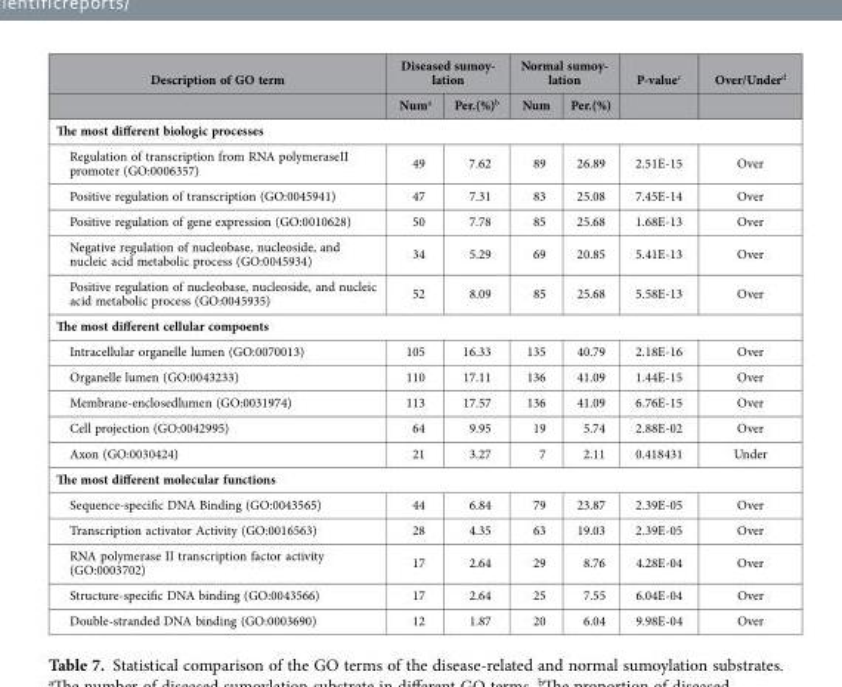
<table><thead><tr><td rowspan="2">Description of GO term</td><td colspan="2">Diseased sumoy- lation</td><td colspan="2">Normal sumoy- lation</td><td rowspan="2">P-value<sup>c</sup></td><td rowspan="2">Over/Under<sup>d</sup></td></tr><tr><td>Num<sup>a</sup></td><td>Per.(%)<sup>b</sup></td><td>Num</td><td>Per.(%)</td></tr></thead><tbody><tr><td colspan="7">The most different biologic processes</td></tr><tr><td>Regulation of transcription from RNA polymeraseII promoter (GO:0006357)</td><td>49</td><td>7.62</td><td>89</td><td>26.89</td><td>2.51E-15</td><td>Over</td></tr><tr><td>Positive regulation of transcription (GO:0045941)</td><td>47</td><td>7.31</td><td>83</td><td>25.08</td><td>7.45E-14</td><td>Over</td></tr><tr><td>Positive regulation of gene expression (GO:0010628)</td><td>50</td><td>7.78</td><td>85</td><td>25.68</td><td>1.68E-13</td><td>Over</td></tr><tr><td>Negative regulation of nucleobase, nucleoside, and nucleic acid metabolic process (GO:0045934)</td><td>34</td><td>5.29</td><td>69</td><td>20.85</td><td>5.41E-13</td><td>Over</td></tr><tr><td>Positive regulation of nucleobase, nucleoside, and nucleic acid metabolic process (GO:0045935)</td><td>52</td><td>8.09</td><td>85</td><td>25.68</td><td>5.58E-13</td><td>Over</td></tr><tr><td colspan="7">The most different cellular compoents</td></tr><tr><td>Intracellular organelle lumen (GO:0070013)</td><td>105</td><td>16.33</td><td>135</td><td>40.79</td><td>2.18E-16</td><td>Over</td></tr><tr><td>Organelle lumen (GO:0043233)</td><td>110</td><td>17.11</td><td>136</td><td>41.09</td><td>1.44E-15</td><td>Over</td></tr><tr><td>Membrane-enclosedlumen (GO:0031974)</td><td>113</td><td>17.57</td><td>136</td><td>41.09</td><td>6.76E-15</td><td>Over</td></tr><tr><td>Cell projection (GO:0042995)</td><td>64</td><td>9.95</td><td>19</td><td>5.74</td><td>2.88E-02</td><td>Over</td></tr><tr><td>Axon (GO:0030424)</td><td>21</td><td>3.27</td><td>7</td><td>2.11</td><td>0.418431</td><td>Under</td></tr><tr><td colspan="7">The most different molecular functions</td></tr><tr><td>Sequence-specific DNA Binding (GO:0043565)</td><td>44</td><td>6.84</td><td>79</td><td>23.87</td><td>2.39E-05</td><td>Over</td></tr><tr><td>Transcription activator Activity (GO:0016563)</td><td>28</td><td>4.35</td><td>63</td><td>19.03</td><td>2.39E-05</td><td>Over</td></tr><tr><td>RNA polymerase II transcription factor activity (GO:0003702)</td><td>17</td><td>2.64</td><td>29</td><td>8.76</td><td>4.28E-04</td><td>Over</td></tr><tr><td>Structure-specific DNA binding (GO:0043566)</td><td>17</td><td>2.64</td><td>25</td><td>7.55</td><td>6.04E-04</td><td>Over</td></tr><tr><td>Double-stranded DNA binding (GO:0003690)</td><td>12</td><td>1.87</td><td>20</td><td>6.04</td><td>9.98E-04</td><td>Over</td></tr></tbody></table>